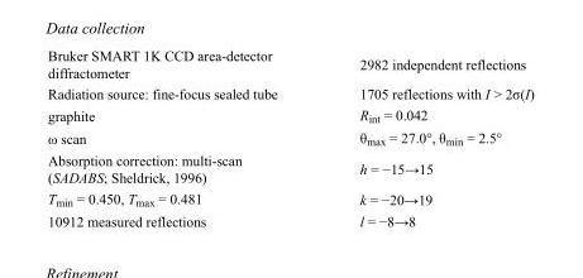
<table><tbody><tr><td>Bruker SMART 1K CCD area-detector diffractometer</td><td>2982 independent reflections</td></tr><tr><td>Radiation source: fine-focus sealed tube</td><td>1705 reflections with I &gt; 2σ(I)</td></tr><tr><td>graphite</td><td>R<sub>int</sub> = 0.042</td></tr><tr><td>ω scan</td><td>θ<sub>max</sub> = 27.0°, θ<sub>min</sub> = 2.5°</td></tr><tr><td>Absorption correction: multi-scan (SADABS; Sheldrick, 1996)</td><td>h = −15→15</td></tr><tr><td>T<sub>min</sub> = 0.450, T<sub>max</sub> = 0.481</td><td>k = −20→19</td></tr><tr><td>10912 measured reflections</td><td>l = −8→8</td></tr></tbody></table>